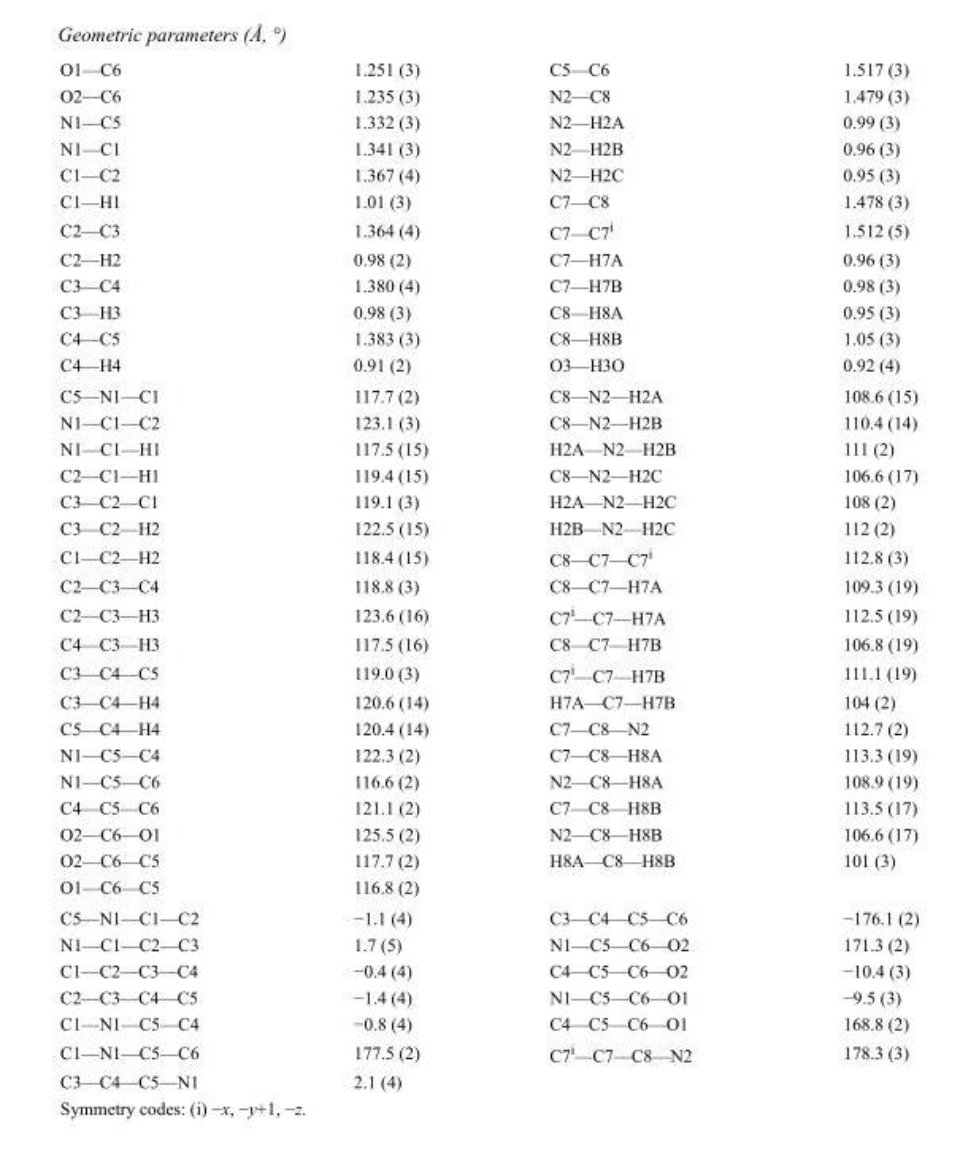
<table><tbody><tr><td>O1—C6</td><td>1.251 (3)</td><td>C5—C6</td><td>1.517 (3)</td></tr><tr><td>O2—C6</td><td>1.235 (3)</td><td>N2—C8</td><td>1.479 (3)</td></tr><tr><td>N1—C5</td><td>1.332 (3)</td><td>N2—H2A</td><td>0.99 (3)</td></tr><tr><td>N1—C1</td><td>1.341 (3)</td><td>N2—H2B</td><td>0.96 (3)</td></tr><tr><td>C1—C2</td><td>1.367 (4)</td><td>N2—H2C</td><td>0.95 (3)</td></tr><tr><td>C1—H1</td><td>1.01 (3)</td><td>C7—C8</td><td>1.478 (3)</td></tr><tr><td>C2—C3</td><td>1.364 (4)</td><td>C7—C7<sup>i</sup></td><td>1.512 (5)</td></tr><tr><td>C2—H2</td><td>0.98 (2)</td><td>C7—H7A</td><td>0.96 (3)</td></tr><tr><td>C3—C4</td><td>1.380 (4)</td><td>C7—H7B</td><td>0.98 (3)</td></tr><tr><td>C3—H3</td><td>0.98 (3)</td><td>C8—H8A</td><td>0.95 (3)</td></tr><tr><td>C4—C5</td><td>1.383 (3)</td><td>C8—H8B</td><td>1.05 (3)</td></tr><tr><td>C4—H4</td><td>0.91 (2)</td><td>O3—H3O</td><td>0.92 (4)</td></tr><tr><td>C5—N1—C1</td><td>117.7 (2)</td><td>C8—N2—H2A</td><td>108.6 (15)</td></tr><tr><td>N1—C1—C2</td><td>123.1 (3)</td><td>C8—N2—H2B</td><td>110.4 (14)</td></tr><tr><td>N1—C1—H1</td><td>117.5 (15)</td><td>H2A—N2—H2B</td><td>111 (2)</td></tr><tr><td>C2—C1—H1</td><td>119.4 (15)</td><td>C8—N2—H2C</td><td>106.6 (17)</td></tr><tr><td>C3—C2—C1</td><td>119.1 (3)</td><td>H2A—N2—H2C</td><td>108 (2)</td></tr><tr><td>C3—C2—H2</td><td>122.5 (15)</td><td>H2B—N2—H2C</td><td>112 (2)</td></tr><tr><td>C1—C2—H2</td><td>118.4 (15)</td><td>C8—C7—C7<sup>i</sup></td><td>112.8 (3)</td></tr><tr><td>C2—C3—C4</td><td>118.8 (3)</td><td>C8—C7—H7A</td><td>109.3 (19)</td></tr><tr><td>C2—C3—H3</td><td>123.6 (16)</td><td>C7<sup>i</sup>—C7—H7A</td><td>112.5 (19)</td></tr><tr><td>C4—C3—H3</td><td>117.5 (16)</td><td>C8—C7—H7B</td><td>106.8 (19)</td></tr><tr><td>C3—C4—C5</td><td>119.0 (3)</td><td>C7<sup>i</sup>—C7—H7B</td><td>111.1 (19)</td></tr><tr><td>C3—C4—H4</td><td>120.6 (14)</td><td>H7A—C7—H7B</td><td>104 (2)</td></tr><tr><td>C5—C4—H4</td><td>120.4 (14)</td><td>C7—C8—N2</td><td>112.7 (2)</td></tr><tr><td>N1—C5—C4</td><td>122.3 (2)</td><td>C7—C8—H8A</td><td>113.3 (19)</td></tr><tr><td>N1—C5—C6</td><td>116.6 (2)</td><td>N2—C8—H8A</td><td>108.9 (19)</td></tr><tr><td>C4—C5—C6</td><td>121.1 (2)</td><td>C7—C8—H8B</td><td>113.5 (17)</td></tr><tr><td>O2—C6—O1</td><td>125.5 (2)</td><td>N2—C8—H8B</td><td>106.6 (17)</td></tr><tr><td>O2—C6—C5</td><td>117.7 (2)</td><td>H8A—C8—H8B</td><td>101 (3)</td></tr><tr><td>O1—C6—C5</td><td>116.8 (2)</td><td></td><td></td></tr><tr><td>C5—N1—C1—C2</td><td>−1.1 (4)</td><td>C3—C4—C5—C6</td><td>−176.1 (2)</td></tr><tr><td>N1—C1—C2—C3</td><td>1.7 (5)</td><td>N1—C5—C6—O2</td><td>171.3 (2)</td></tr><tr><td>C1—C2—C3—C4</td><td>−0.4 (4)</td><td>C4—C5—C6—O2</td><td>−10.4 (3)</td></tr><tr><td>C2—C3—C4—C5</td><td>−1.4 (4)</td><td>N1—C5—C6—O1</td><td>−9.5 (3)</td></tr><tr><td>C1—N1—C5—C4</td><td>−0.8 (4)</td><td>C4—C5—C6—O1</td><td>168.8 (2)</td></tr><tr><td>C1—N1—C5—C6</td><td>177.5 (2)</td><td>C7<sup>i</sup>—C7—C8—N2</td><td>178.3 (3)</td></tr><tr><td>C3—C4—C5—N1</td><td>2.1 (4)</td><td></td><td></td></tr></tbody></table>